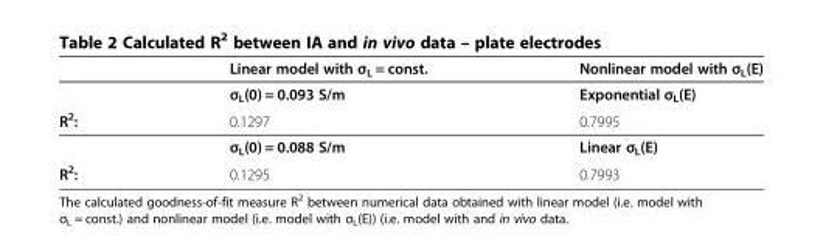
<table><thead><tr><td></td><td>Linear model with σ<sub>L</sub> = const.</td><td>Nonlinear model with σ<sub>L</sub>(E)</td></tr></thead><tbody><tr><td></td><td>σ<sub>L</sub>(0) = 0.093 S/m</td><td>Exponential σ<sub>L</sub>(E)</td></tr><tr><td rowspan="2">R<sup>2</sup>:</td><td>0.1297</td><td>0.7995</td></tr><tr><td>σ<sub>L</sub>(0) = 0.088 S/m</td><td>Linear σ<sub>L</sub>(E)</td></tr><tr><td>R<sup>2</sup>:</td><td>0.1295</td><td>0.7993</td></tr></tbody></table>